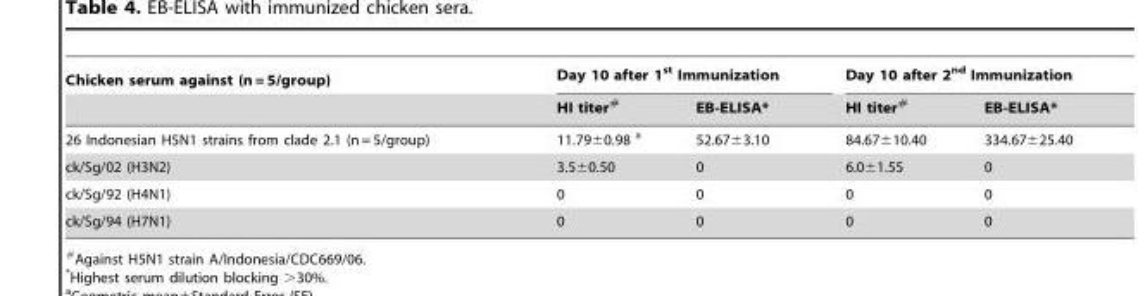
<table><thead><tr><td rowspan="2">Chicken serum against (n = 5/group)</td><td colspan="2">Day 10 after 1<sup>st</sup> Immunization</td><td colspan="2">Day 10 after 2<sup>nd</sup> Immunization</td></tr><tr><td>HI titer#</td><td>EB-ELISA*</td><td>HI titer#</td><td>EB-ELISA*</td></tr></thead><tbody><tr><td>26 Indonesian H5N1 strains from clade 2.1 (n = 5/group)</td><td>11.79±0.98 a</td><td>52.67±3.10</td><td>84.67±10.40</td><td>334.67±25.40</td></tr><tr><td>ck/Sg/02 (H3N2)</td><td>3.5±0.50</td><td>0</td><td>6.0±1.55</td><td>0</td></tr><tr><td>ck/Sg/92 (H4N1)</td><td>0</td><td>0</td><td>0</td><td>0</td></tr><tr><td>ck/Sg/94 (H7N1)</td><td>0</td><td>0</td><td>0</td><td>0</td></tr></tbody></table>